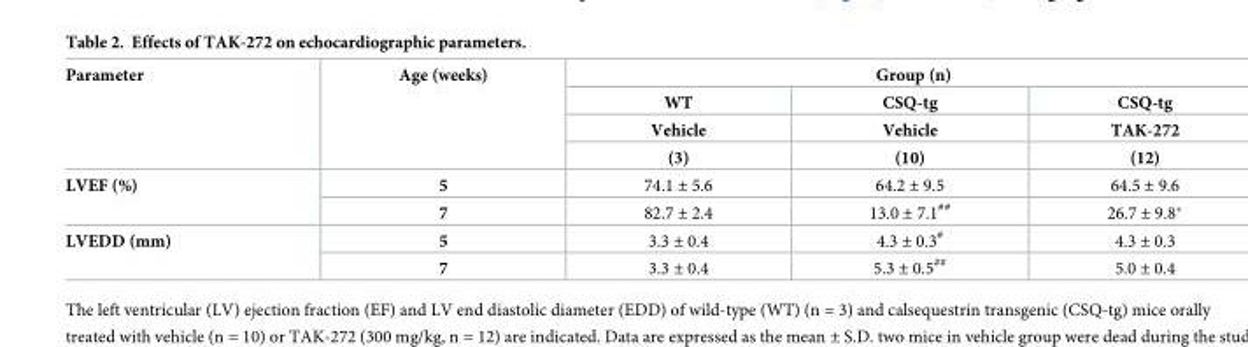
<table><thead><tr><td rowspan="4">Parameter</td><td rowspan="4">Age (weeks)</td><td colspan="3">Group (n)</td></tr><tr><td rowspan="3">WT Vehicle (3)</td><td rowspan="3">CSQ-tg Vehicle (10)</td><td rowspan="3">CSQ-tg TAK-272 (12)</td></tr><tr></tr><tr></tr></thead><tbody><tr><td rowspan="2">LVEF (%)</td><td>5</td><td>74.1 ± 5.6</td><td>64.2 ± 9.5</td><td>64.5 ± 9.6</td></tr><tr><td>7</td><td>82.7 ± 2.4</td><td>13.0 ± 7.1<sup>##</sup></td><td>26.7 ± 9.8*</td></tr><tr><td rowspan="2">LVEDD (mm)</td><td>5</td><td>3.3 ± 0.4</td><td>4.3 ± 0.3<sup>#</sup></td><td>4.3 ± 0.3</td></tr><tr><td>7</td><td>3.3 ± 0.4</td><td>5.3 ± 0.5<sup>##</sup></td><td>5.0 ± 0.4</td></tr></tbody></table>